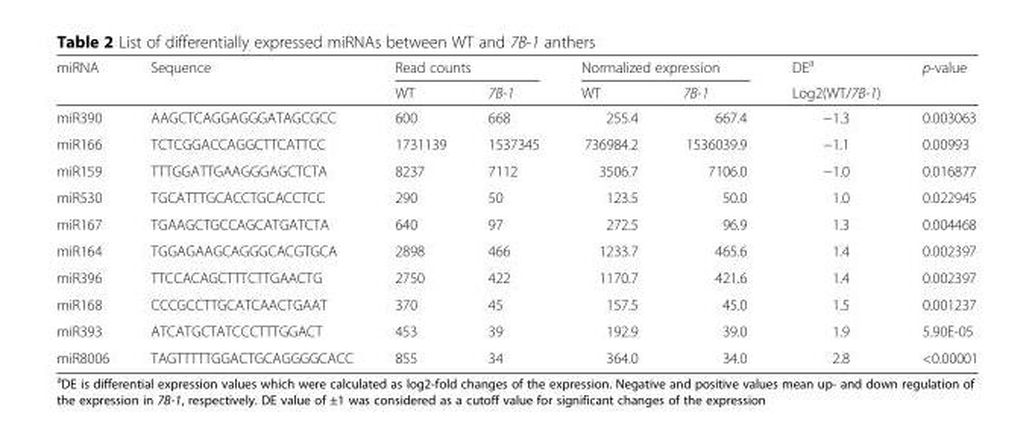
<table><thead><tr><td rowspan="2">miRNA</td><td rowspan="2">Sequence</td><td colspan="2">Read counts</td><td colspan="2">Normalized expression</td><td rowspan="2">DE<sup>a</sup> Log2(WT/7B-1)</td><td rowspan="2">p-value</td></tr><tr><td>WT</td><td>7B-1</td><td>WT</td><td>7B-1</td></tr></thead><tbody><tr><td>miR390</td><td>AAGCTCAGGAGGGATAGCGCC</td><td>600</td><td>668</td><td>255.4</td><td>667.4</td><td>−1.3</td><td>0.003063</td></tr><tr><td>miR166</td><td>TCTCGGACCAGGCTTCATTCC</td><td>1731139</td><td>1537345</td><td>736984.2</td><td>1536039.9</td><td>−1.1</td><td>0.00993</td></tr><tr><td>miR159</td><td>TTTGGATTGAAGGGAGCTCTA</td><td>8237</td><td>7112</td><td>3506.7</td><td>7106.0</td><td>−1.0</td><td>0.016877</td></tr><tr><td>miR530</td><td>TGCATTTGCACCTGCACCTCC</td><td>290</td><td>50</td><td>123.5</td><td>50.0</td><td>1.0</td><td>0.022945</td></tr><tr><td>miR167</td><td>TGAAGCTGCCAGCATGATCTA</td><td>640</td><td>97</td><td>272.5</td><td>96.9</td><td>1.3</td><td>0.004468</td></tr><tr><td>miR164</td><td>TGGAGAAGCAGGGCACGTGCA</td><td>2898</td><td>466</td><td>1233.7</td><td>465.6</td><td>1.4</td><td>0.002397</td></tr><tr><td>miR396</td><td>TTCCACAGCTTTCTTGAACTG</td><td>2750</td><td>422</td><td>1170.7</td><td>421.6</td><td>1.4</td><td>0.002397</td></tr><tr><td>miR168</td><td>CCCGCCTTGCATCAACTGAAT</td><td>370</td><td>45</td><td>157.5</td><td>45.0</td><td>1.5</td><td>0.001237</td></tr><tr><td>miR393</td><td>ATCATGCTATCCCTTTGGACT</td><td>453</td><td>39</td><td>192.9</td><td>39.0</td><td>1.9</td><td>5.90E-05</td></tr><tr><td>miR8006</td><td>TAGTTTTTGGACTGCAGGGGCACC</td><td>855</td><td>34</td><td>364.0</td><td>34.0</td><td>2.8</td><td>&lt;0.00001</td></tr></tbody></table>